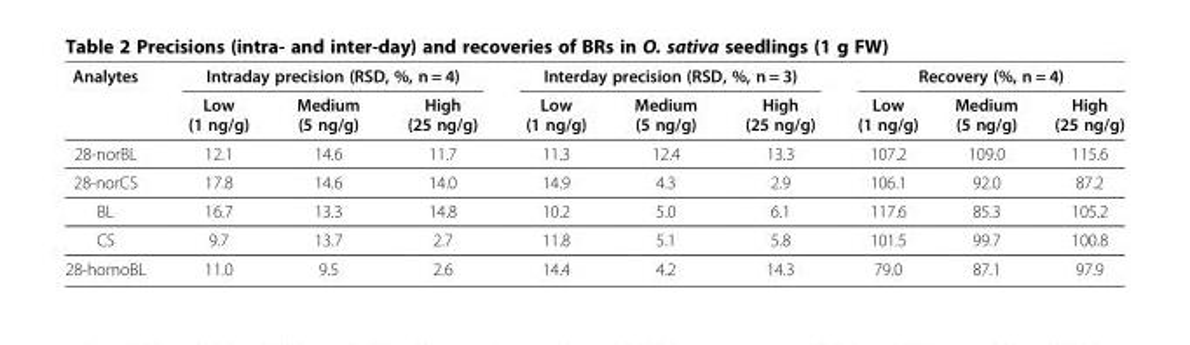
<table><thead><tr><td rowspan="2">Analytes</td><td colspan="3">Intraday precision (RSD, %, n = 4)</td><td colspan="3">Interday precision (RSD, %, n = 3)</td><td colspan="3">Recovery (%, n = 4)</td></tr><tr><td>Low (1 ng/g)</td><td>Medium (5 ng/g)</td><td>High (25 ng/g)</td><td>Low (1 ng/g)</td><td>Medium (5 ng/g)</td><td>High (25 ng/g)</td><td>Low (1 ng/g)</td><td>Medium (5 ng/g)</td><td>High (25 ng/g)</td></tr></thead><tbody><tr><td>28-norBL</td><td>12.1</td><td>14.6</td><td>11.7</td><td>11.3</td><td>12.4</td><td>13.3</td><td>107.2</td><td>109.0</td><td>115.6</td></tr><tr><td>28-norCS</td><td>17.8</td><td>14.6</td><td>14.0</td><td>14.9</td><td>4.3</td><td>2.9</td><td>106.1</td><td>92.0</td><td>87.2</td></tr><tr><td>BL</td><td>16.7</td><td>13.3</td><td>14.8</td><td>10.2</td><td>5.0</td><td>6.1</td><td>117.6</td><td>85.3</td><td>105.2</td></tr><tr><td>CS</td><td>9.7</td><td>13.7</td><td>2.7</td><td>11.8</td><td>5.1</td><td>5.8</td><td>101.5</td><td>99.7</td><td>100.8</td></tr><tr><td>28-homoBL</td><td>11.0</td><td>9.5</td><td>2.6</td><td>14.4</td><td>4.2</td><td>14.3</td><td>79.0</td><td>87.1</td><td>97.9</td></tr></tbody></table>